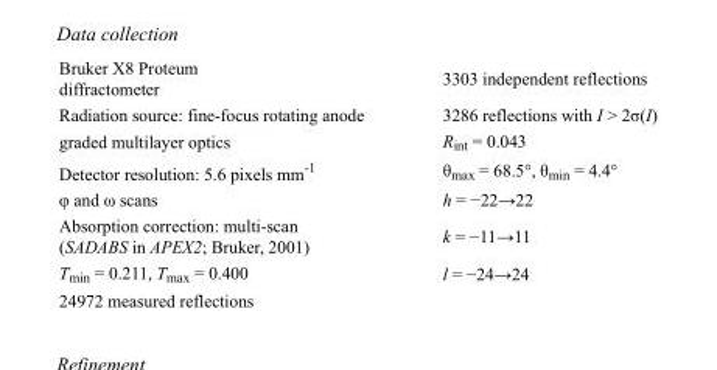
<table><tbody><tr><td>Bruker X8 Proteum diffractometer</td><td>3303 independent reflections</td></tr><tr><td>Radiation source: fine-focus rotating anode</td><td>3286 reflections with I &gt; 2σ(I)</td></tr><tr><td>graded multilayer optics</td><td>R<sub>int</sub> = 0.043</td></tr><tr><td>Detector resolution: 5.6 pixels mm<sup>-1</sup></td><td>θ<sub>max</sub> = 68.5°, θ<sub>min</sub> = 4.4°</td></tr><tr><td>φ and ω scans</td><td>h = −22→22</td></tr><tr><td>Absorption correction: multi-scan (SADABS in APEX2; Bruker, 2001)</td><td>k = −11→11</td></tr><tr><td>T<sub>min</sub> = 0.211, T<sub>max</sub> = 0.400</td><td>l = −24→24</td></tr><tr><td>24972 measured reflections</td><td></td></tr></tbody></table>